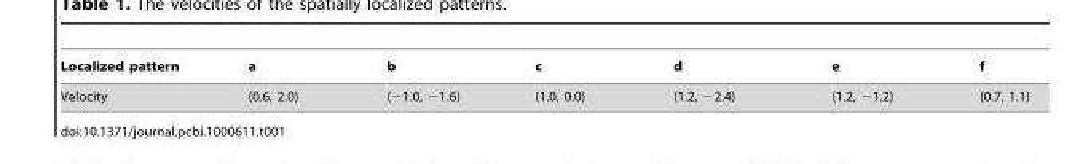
<table><thead><tr><td>Localized pattern</td><td>a</td><td>b</td><td>c</td><td>d</td><td>e</td><td>f</td></tr></thead><tbody><tr><td>Velocity</td><td>(0.6, 2.0)</td><td>(−1.0, −1.6)</td><td>(1.0, 0.0)</td><td>(1.2, −2.4)</td><td>(1.2, −1.2)</td><td>(0.7, 1.1)</td></tr></tbody></table>